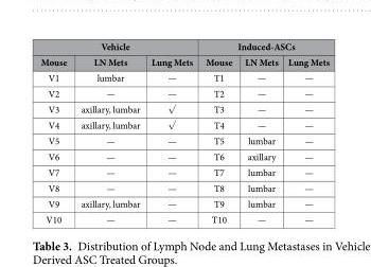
<table><thead><tr><td colspan="3">Vehicle</td><td colspan="3">Induced-ASCs</td></tr><tr><td>Mouse</td><td>LN Mets</td><td>Lung Mets</td><td>Mouse</td><td>LN Mets</td><td>Lung Mets</td></tr></thead><tbody><tr><td>V1</td><td>lumbar</td><td>—</td><td>T1</td><td>—</td><td>—</td></tr><tr><td>V2</td><td>—</td><td>—</td><td>T2</td><td>—</td><td>—</td></tr><tr><td>V3</td><td>axillary, lumbar</td><td>√</td><td>T3</td><td>—</td><td>—</td></tr><tr><td>V4</td><td>axillary, lumbar</td><td>√</td><td>T4</td><td>—</td><td>—</td></tr><tr><td>V5</td><td>—</td><td>—</td><td>T5</td><td>lumbar</td><td>—</td></tr><tr><td>V6</td><td>—</td><td>—</td><td>T6</td><td>axillary</td><td>—</td></tr><tr><td>V7</td><td>—</td><td>—</td><td>T7</td><td>lumbar</td><td>—</td></tr><tr><td>V8</td><td>—</td><td>—</td><td>T8</td><td>lumbar</td><td>—</td></tr><tr><td>V9</td><td>axillary, lumbar</td><td>—</td><td>T9</td><td>lumbar</td><td>—</td></tr><tr><td>V10</td><td>—</td><td>—</td><td>T10</td><td>—</td><td>—</td></tr></tbody></table>